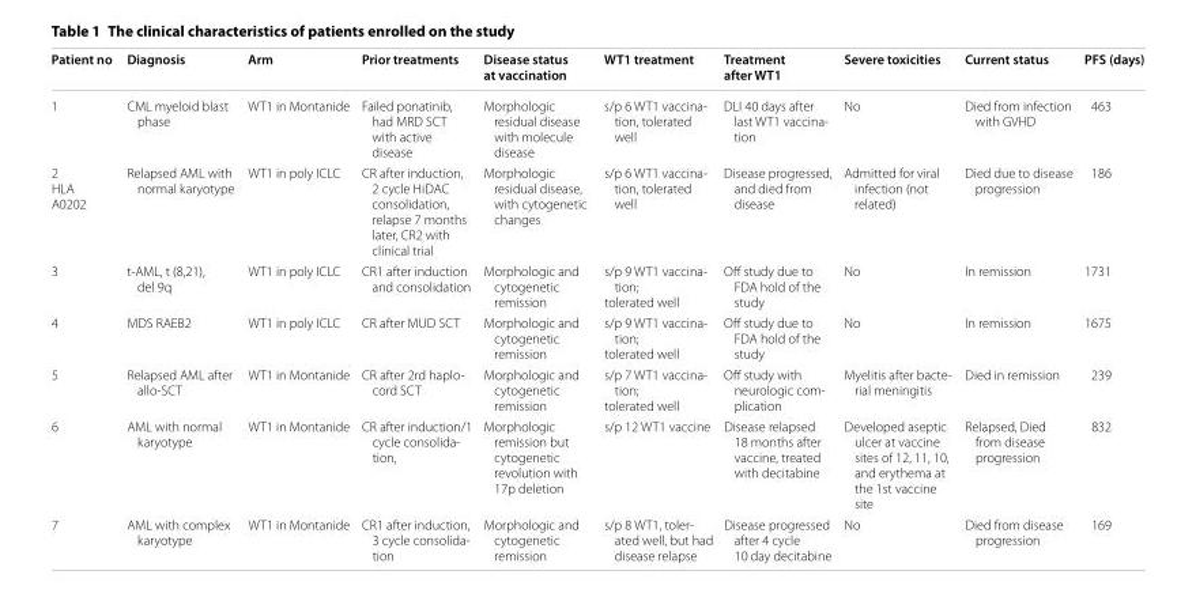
<table><thead><tr><td>Patient no</td><td>Diagnosis</td><td>Arm</td><td>Prior treatments</td><td>Disease status at vaccination</td><td>WT1 treatment</td><td>Treatment after WT1</td><td>Severe toxicities</td><td>Current status</td><td>PFS (days)</td></tr></thead><tbody><tr><td>1</td><td>CML myeloid blast phase</td><td>WT1 in Montanide</td><td>Failed ponatinib, had MRD SCT with active disease</td><td>Morphologic residual disease with molecule disease</td><td>s/p 6 WT1 vaccina‑ tion, tolerated well</td><td>DLI 40 days after last WT1 vaccina‑ tion</td><td>No</td><td>Died from infection with GVHD</td><td>463</td></tr><tr><td>2 HLA A0202</td><td>Relapsed AML with normal karyotype</td><td>WT1 in poly ICLC</td><td>CR after induction, 2 cycle HiDAC consolidation, relapse 7 months later, CR2 with clinical trial</td><td>Morphologic residual disease, with cytogenetic changes</td><td>s/p 6 WT1 vaccina‑ tion, tolerated well</td><td>Disease progressed, and died from disease</td><td>Admitted for viral infection (not related)</td><td>Died due to disease progression</td><td>186</td></tr><tr><td>3</td><td>t‑AML, t (8,21), del 9q</td><td>WT1 in poly ICLC</td><td>CR1 after induction and consolidation</td><td>Morphologic and cytogenetic remission</td><td>s/p 9 WT1 vaccina‑ tion; tolerated well</td><td>Off study due to FDA hold of the study</td><td>No</td><td>In remission</td><td>1731</td></tr><tr><td>4</td><td>MDS RAEB2</td><td>WT1 in poly ICLC</td><td>CR after MUD SCT</td><td>Morphologic and cytogenetic remission</td><td>s/p 9 WT1 vaccina‑ tion; tolerated well</td><td>Off study due to FDA hold of the study</td><td>No</td><td>In remission</td><td>1675</td></tr><tr><td>5</td><td>Relapsed AML after allo‑SCT</td><td>WT1 in Montanide</td><td>CR after 2rd haplo‑ cord SCT</td><td>Morphologic and cytogenetic remission</td><td>s/p 7 WT1 vaccina‑ tion; tolerated well</td><td>Off study with neurologic com‑ plication</td><td>Myelitis after bacte‑ rial meningitis</td><td>Died in remission</td><td>239</td></tr><tr><td>6</td><td>AML with normal karyotype</td><td>WT1 in Montanide</td><td>CR after induction/1 cycle consolida‑ tion,</td><td>Morphologic remission but cytogenetic revolution with 17p deletion</td><td>s/p 12 WT1 vaccine</td><td>Disease relapsed 18 months after vaccine, treated with decitabine</td><td>Developed aseptic ulcer at vaccine sites of 12, 11, 10, and erythema at the 1st vaccine site</td><td>Relapsed, Died from disease progression</td><td>832</td></tr><tr><td>7</td><td>AML with complex karyotype</td><td>WT1 in Montanide</td><td>CR1 after induction, 3 cycle consolida‑ tion</td><td>Morphologic and cytogenetic remission</td><td>s/p 8 WT1, toler‑ ated well, but had disease relapse</td><td>Disease progressed after 4 cycle 10 day decitabine</td><td>No</td><td>Died from disease progression</td><td>169</td></tr></tbody></table>